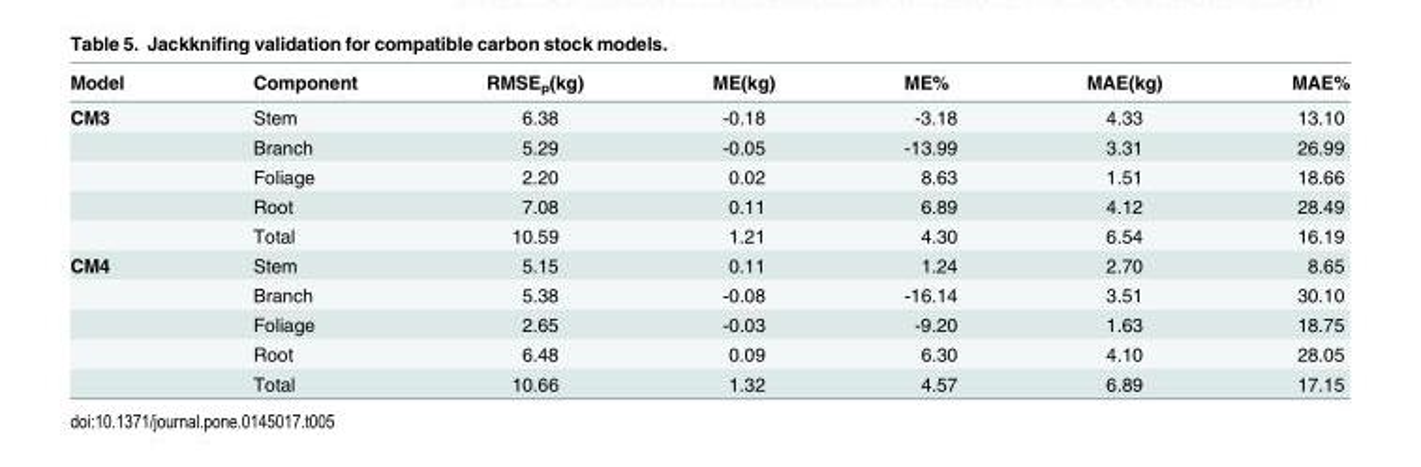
<table><thead><tr><td>Model</td><td>Component</td><td>RMSE<sub>p</sub>(kg)</td><td>ME(kg)</td><td>ME%</td><td>MAE(kg)</td><td>MAE%</td></tr></thead><tbody><tr><td rowspan="5">CM3</td><td>Stem</td><td>6.38</td><td>-0.18</td><td>-3.18</td><td>4.33</td><td>13.10</td></tr><tr><td>Branch</td><td>5.29</td><td>-0.05</td><td>-13.99</td><td>3.31</td><td>26.99</td></tr><tr><td>Foliage</td><td>2.20</td><td>0.02</td><td>8.63</td><td>1.51</td><td>18.66</td></tr><tr><td>Root</td><td>7.08</td><td>0.11</td><td>6.89</td><td>4.12</td><td>28.49</td></tr><tr><td>Total</td><td>10.59</td><td>1.21</td><td>4.30</td><td>6.54</td><td>16.19</td></tr><tr><td rowspan="5">CM4</td><td>Stem</td><td>5.15</td><td>0.11</td><td>1.24</td><td>2.70</td><td>8.65</td></tr><tr><td>Branch</td><td>5.38</td><td>-0.08</td><td>-16.14</td><td>3.51</td><td>30.10</td></tr><tr><td>Foliage</td><td>2.65</td><td>-0.03</td><td>-9.20</td><td>1.63</td><td>18.75</td></tr><tr><td>Root</td><td>6.48</td><td>0.09</td><td>6.30</td><td>4.10</td><td>28.05</td></tr><tr><td>Total</td><td>10.66</td><td>1.32</td><td>4.57</td><td>6.89</td><td>17.15</td></tr></tbody></table>